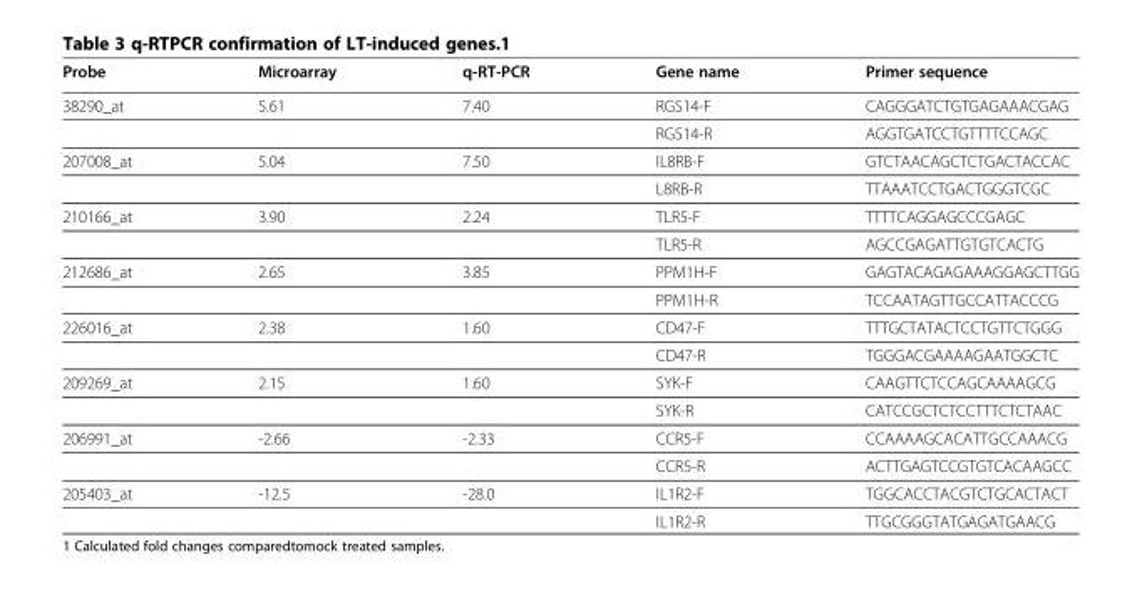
<table><thead><tr><td>Probe</td><td>Microarray</td><td>q-RT-PCR</td><td>Gene name</td><td>Primer sequence</td></tr></thead><tbody><tr><td rowspan="2">38290_at</td><td>5.61</td><td>7.40</td><td>RGS14-F</td><td>CAGGGATCTGTGAGAAACGAG</td></tr><tr><td></td><td></td><td>RGS14-R</td><td>AGGTGATCCTGTTTTCCAGC</td></tr><tr><td rowspan="2">207008_at</td><td>5.04</td><td>7.50</td><td>IL8RB-F</td><td>GTCTAACAGCTCTGACTACCAC</td></tr><tr><td></td><td></td><td>L8RB-R</td><td>TTAAATCCTGACTGGGTCGC</td></tr><tr><td rowspan="2">210166_at</td><td>3.90</td><td>2.24</td><td>TLR5-F</td><td>TTTTCAGGAGCCCGAGC</td></tr><tr><td></td><td></td><td>TLR5-R</td><td>AGCCGAGATTGTGTCACTG</td></tr><tr><td rowspan="2">212686_at</td><td>2.65</td><td>3.85</td><td>PPM1H-F</td><td>GAGTACAGAGAAAGGAGCTTGG</td></tr><tr><td></td><td></td><td>PPM1H-R</td><td>TCCAATAGTTGCCATTACCCG</td></tr><tr><td rowspan="2">226016_at</td><td>2.38</td><td>1.60</td><td>CD47-F</td><td>TTTGCTATACTCCTGTTCTGGG</td></tr><tr><td></td><td></td><td>CD47-R</td><td>TGGGACGAAAAGAATGGCTC</td></tr><tr><td rowspan="2">209269_at</td><td>2.15</td><td>1.60</td><td>SYK-F</td><td>CAAGTTCTCCAGCAAAAGCG</td></tr><tr><td></td><td></td><td>SYK-R</td><td>CATCCGCTCTCCTTTCTCTAAC</td></tr><tr><td rowspan="2">206991_at</td><td>-2.66</td><td>-2.33</td><td>CCR5-F</td><td>CCAAAAGCACATTGCCAAACG</td></tr><tr><td></td><td></td><td>CCR5-R</td><td>ACTTGAGTCCGTGTCACAAGCC</td></tr><tr><td rowspan="2">205403_at</td><td>-12.5</td><td>-28.0</td><td>IL1R2-F</td><td>TGGCACCTACGTCTGCACTACT</td></tr><tr><td></td><td></td><td>IL1R2-R</td><td>TTGCGGGTATGAGATGAACG</td></tr></tbody></table>